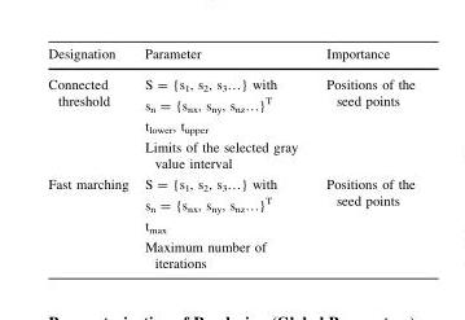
<table><thead><tr><td>Designation</td><td>Parameter</td><td>Importance</td></tr></thead><tbody><tr><td>Connected threshold</td><td>S = {s<sub>1</sub>, s<sub>2</sub>, s<sub>3</sub>…} with s<sub>n</sub> = {s<sub>nx</sub>, s<sub>ny</sub>, s<sub>nz</sub>…}<sup>T</sup> t<sub>lower</sub>, t<sub>upper</sub> Limits of the selected gray value interval</td><td>Positions of the seed points</td></tr><tr><td>Fast marching</td><td>S = {s<sub>1</sub>, s<sub>2</sub>, s<sub>3</sub>…} with s<sub>n</sub> = {s<sub>nx</sub>, s<sub>ny</sub>, s<sub>nz</sub>…}<sup>T</sup> t<sub>max</sub> Maximum number of iterations</td><td>Positions of the seed points</td></tr></tbody></table>